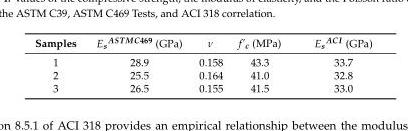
<table><thead><tr><td>Samples</td><td>E<sub>s</sub><sup>ASTMC469</sup> (GPa)</td><td>ν</td><td>f’c (MPa)</td><td>E<sub>s</sub><sup>ACI</sup> (GPa)</td></tr></thead><tbody><tr><td>1</td><td>28.9</td><td>0.158</td><td>43.3</td><td>33.7</td></tr><tr><td>2</td><td>25.5</td><td>0.164</td><td>41.0</td><td>32.8</td></tr><tr><td>3</td><td>26.5</td><td>0.155</td><td>41.5</td><td>33.0</td></tr></tbody></table>